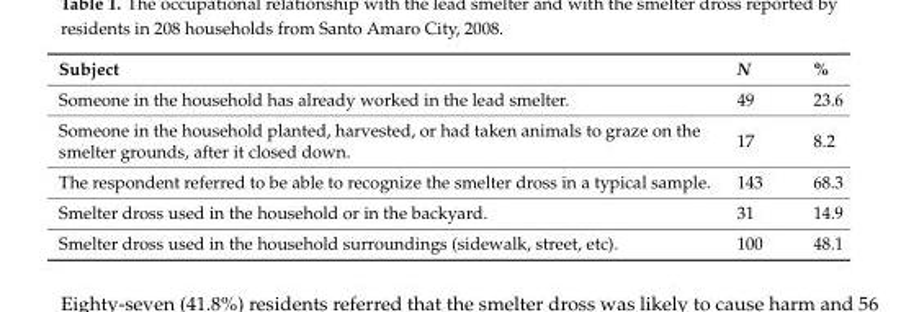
<table><thead><tr><td>Subject</td><td>N</td><td>%</td></tr></thead><tbody><tr><td>Someone in the household has already worked in the lead smelter.</td><td>49</td><td>23.6</td></tr><tr><td>Someone in the household planted, harvested, or had taken animals to graze on the smelter grounds, after it closed down.</td><td>17</td><td>8.2</td></tr><tr><td>The respondent referred to be able to recognize the smelter dross in a typical sample.</td><td>143</td><td>68.3</td></tr><tr><td>Smelter dross used in the household or in the backyard.</td><td>31</td><td>14.9</td></tr><tr><td>Smelter dross used in the household surroundings (sidewalk, street, etc).</td><td>100</td><td>48.1</td></tr></tbody></table>